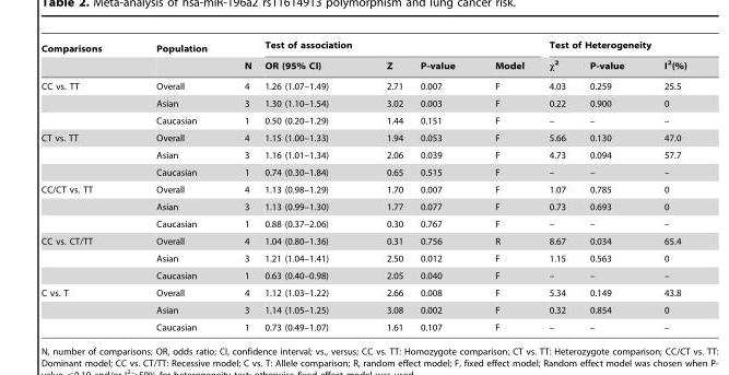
<table><thead><tr><td rowspan="2">Comparisons</td><td rowspan="2">Population</td><td rowspan="2">N</td><td colspan="4">Test of association</td><td colspan="3">Test of Heterogeneity</td></tr><tr><td>OR (95% CI)</td><td>Z</td><td>P-value</td><td>Model</td><td>χ<sup>2</sup></td><td>P-value</td><td>I<sup>2</sup>(%)</td></tr></thead><tbody><tr><td rowspan="3">CC vs. TT</td><td>Overall</td><td>4</td><td>1.26 (1.07–1.49)</td><td>2.71</td><td>0.007</td><td>F</td><td>4.03</td><td>0.259</td><td>25.5</td></tr><tr><td>Asian</td><td>3</td><td>1.30 (1.10–1.54)</td><td>3.02</td><td>0.003</td><td>F</td><td>0.22</td><td>0.900</td><td>0</td></tr><tr><td>Caucasian</td><td>1</td><td>0.50 (0.20–1.29)</td><td>1.44</td><td>0.151</td><td>F</td><td>–</td><td>–</td><td>–</td></tr><tr><td rowspan="3">CT vs. TT</td><td>Overall</td><td>4</td><td>1.15 (1.00–1.33)</td><td>1.94</td><td>0.053</td><td>F</td><td>5.66</td><td>0.130</td><td>47.0</td></tr><tr><td>Asian</td><td>3</td><td>1.16 (1.01–1.34)</td><td>2.06</td><td>0.039</td><td>F</td><td>4.73</td><td>0.094</td><td>57.7</td></tr><tr><td>Caucasian</td><td>1</td><td>0.74 (0.30–1.84)</td><td>0.65</td><td>0.515</td><td>F</td><td>–</td><td>–</td><td>–</td></tr><tr><td rowspan="3">CC/CT vs. TT</td><td>Overall</td><td>4</td><td>1.13 (0.98–1.29)</td><td>1.70</td><td>0.007</td><td>F</td><td>1.07</td><td>0.785</td><td>0</td></tr><tr><td>Asian</td><td>3</td><td>1.13 (0.99–1.30)</td><td>1.77</td><td>0.077</td><td>F</td><td>0.73</td><td>0.693</td><td>0</td></tr><tr><td>Caucasian</td><td>1</td><td>0.88 (0.37–2.06)</td><td>0.30</td><td>0.767</td><td>F</td><td>–</td><td>–</td><td>–</td></tr><tr><td rowspan="3">CC vs. CT/TT</td><td>Overall</td><td>4</td><td>1.04 (0.80–1.36)</td><td>0.31</td><td>0.756</td><td>R</td><td>8.67</td><td>0.034</td><td>65.4</td></tr><tr><td>Asian</td><td>3</td><td>1.21 (1.04–1.41)</td><td>2.50</td><td>0.012</td><td>F</td><td>1.15</td><td>0.563</td><td>0</td></tr><tr><td>Caucasian</td><td>1</td><td>0.63 (0.40–0.98)</td><td>2.05</td><td>0.040</td><td>F</td><td>–</td><td>–</td><td>–</td></tr><tr><td rowspan="3">C vs. T</td><td>Overall</td><td>4</td><td>1.12 (1.03–1.22)</td><td>2.66</td><td>0.008</td><td>F</td><td>5.34</td><td>0.149</td><td>43.8</td></tr><tr><td>Asian</td><td>3</td><td>1.14 (1.05–1.25)</td><td>3.08</td><td>0.002</td><td>F</td><td>0.32</td><td>0.854</td><td>0</td></tr><tr><td>Caucasian</td><td>1</td><td>0.73 (0.49–1.07)</td><td>1.61</td><td>0.107</td><td>F</td><td>–</td><td>–</td><td>–</td></tr></tbody></table>